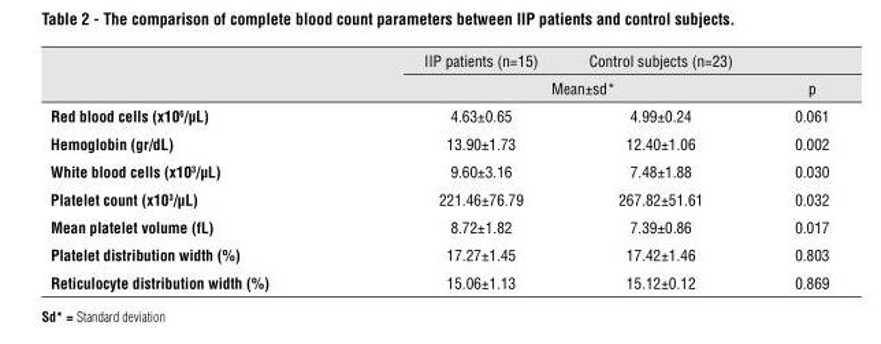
<table><thead><tr><td rowspan="2"></td><td>IIP patients (n=15)</td><td>Control subjects (n=23)</td><td rowspan="2">p</td></tr><tr><td colspan="2">Mean±sd*</td></tr></thead><tbody><tr><td>Red blood cells (x10<sup>6</sup>/µl)</td><td>4.63±0.65</td><td>4.99±0.24</td><td>0.061</td></tr><tr><td>Hemoglobin (gr/dl)</td><td>13.90±1.73</td><td>12.40±1.06</td><td>0.002</td></tr><tr><td>white blood cells (x10<sup>3</sup>/µl)</td><td>9.60±3.16</td><td>7.48±1.88</td><td>0.030</td></tr><tr><td>Platelet count (x10<sup>3</sup>/µl)</td><td>221.46±76.79</td><td>267.82±51.61</td><td>0.032</td></tr><tr><td>Mean platelet volume (fl)</td><td>8.72±1.82</td><td>7.39±0.86</td><td>0.017</td></tr><tr><td>Platelet distribution width (%)</td><td>17.27±1.45</td><td>17.42±1.46</td><td>0.803</td></tr><tr><td>Reticulocyte distribution width (%)</td><td>15.06±1.13</td><td>15.12±0.12</td><td>0.869</td></tr></tbody></table>